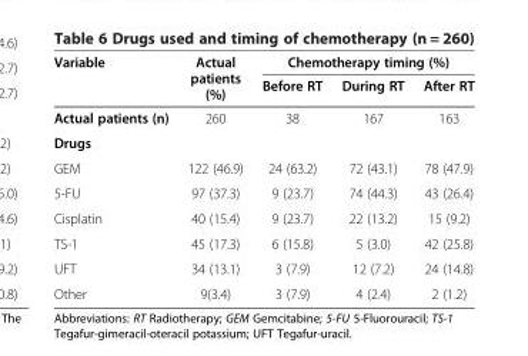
<table><thead><tr><td rowspan="2">Variable</td><td rowspan="2">Actual patients (%)</td><td colspan="3">Chemotherapy timing (%)</td></tr><tr><td>Before RT</td><td>During RT</td><td>After RT</td></tr></thead><tbody><tr><td>Actual patients (n)</td><td>260</td><td>38</td><td>167</td><td>163</td></tr><tr><td colspan="5">Drugs</td></tr><tr><td>GEM</td><td>122 (46.9)</td><td>24 (63.2)</td><td>72 (43.1)</td><td>78 (47.9)</td></tr><tr><td>5-FU</td><td>97 (37.3)</td><td>9 (23.7)</td><td>74 (44.3)</td><td>43 (26.4)</td></tr><tr><td>Cisplatin</td><td>40 (15.4)</td><td>9 (23.7)</td><td>22 (13.2)</td><td>15 (9.2)</td></tr><tr><td>TS-1</td><td>45 (17.3)</td><td>6 (15.8)</td><td>5 (3.0)</td><td>42 (25.8)</td></tr><tr><td>UFT</td><td>34 (13.1)</td><td>3 (7.9)</td><td>12 (7.2)</td><td>24 (14.8)</td></tr><tr><td>Other</td><td>9(3.4)</td><td>3 (7.9)</td><td>4 (2.4)</td><td>2 (1.2)</td></tr></tbody></table>